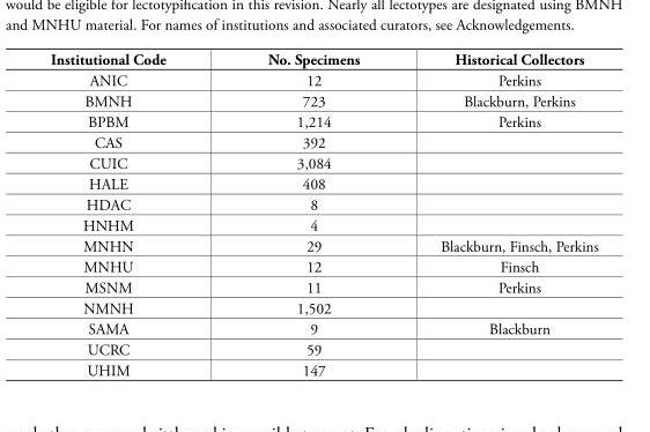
<table><thead><tr><td>Institutional Code</td><td>No. Specimens</td><td>Historical Collectors</td></tr></thead><tbody><tr><td>ANIC</td><td>12</td><td>Perkins</td></tr><tr><td>BMNH</td><td>723</td><td>Blackburn, Perkins</td></tr><tr><td>BPBM</td><td>1,214</td><td>Perkins</td></tr><tr><td>CAS</td><td>392</td><td></td></tr><tr><td>CUIC</td><td>3,084</td><td></td></tr><tr><td>HALE</td><td>408</td><td></td></tr><tr><td>HDAC</td><td>8</td><td></td></tr><tr><td>HNHM</td><td>4</td><td></td></tr><tr><td>MNHN</td><td>29</td><td>Blackburn, Finsch, Perkins</td></tr><tr><td>MNHU</td><td>12</td><td>Finsch</td></tr><tr><td>MSNM</td><td>11</td><td>Perkins</td></tr><tr><td>NMNH</td><td>1,502</td><td></td></tr><tr><td>SAMA</td><td>9</td><td>Blackburn</td></tr><tr><td>UCRC</td><td>59</td><td></td></tr><tr><td>UHIM</td><td>147</td><td></td></tr></tbody></table>